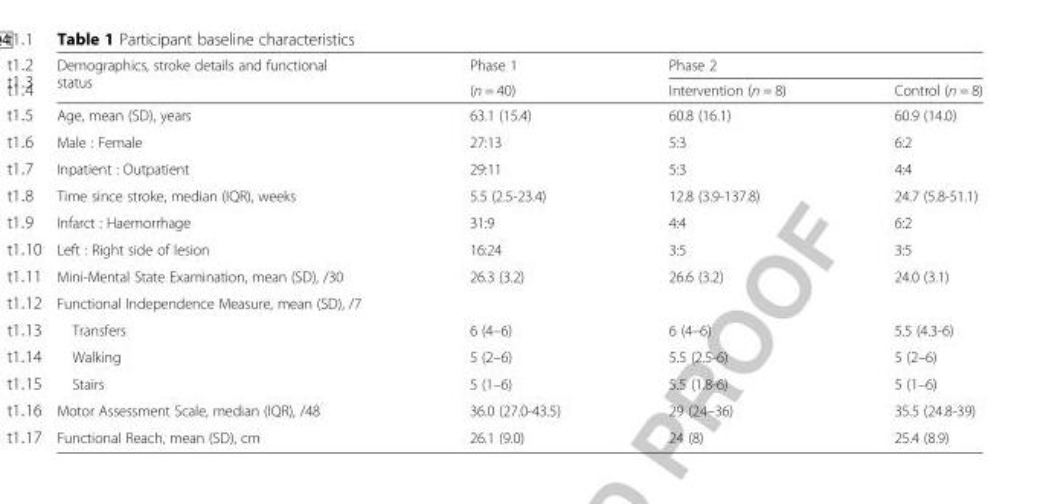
<table><thead><tr><td rowspan="2">Demographics, stroke details and functional status</td><td rowspan="2">Phase 1 (n = 40)</td><td colspan="2">Phase 2</td></tr><tr><td>Intervention (n = 8)</td><td>Control (n = 8)</td></tr></thead><tbody><tr><td>Age, mean (SD), years</td><td>63.1 (15.4)</td><td>60.8 (16.1)</td><td>60.9 (14.0)</td></tr><tr><td>Male : Female</td><td>27:13</td><td>5:3</td><td>6:2</td></tr><tr><td>Inpatient : Outpatient</td><td>29:11</td><td>5:3</td><td>4:4</td></tr><tr><td>Time since stroke, median (IQR), weeks</td><td>5.5 (2.5-23.4)</td><td>12.8 (3.9-137.8)</td><td>24.7 (5.8-51.1)</td></tr><tr><td>Infarct : Haemorrhage</td><td>31:9</td><td>4:4</td><td>6:2</td></tr><tr><td>Left : Right side of lesion</td><td>16:24</td><td>3:5</td><td>3:5</td></tr><tr><td>Mini-Mental State Examination, mean (SD), /30</td><td>26.3 (3.2)</td><td>26.6 (3.2)</td><td>24.0 (3.1)</td></tr><tr><td colspan="4">Functional Independence Measure, mean (SD), /7</td></tr><tr><td>Transfers</td><td>6 (4–6)</td><td>6 (4–6)</td><td>5.5 (4.3-6)</td></tr><tr><td>Walking</td><td>5 (2–6)</td><td>5.5 (2.5-6)</td><td>5 (2–6)</td></tr><tr><td>Stairs</td><td>5 (1–6)</td><td>5.5 (1.8-6)</td><td>5 (1–6)</td></tr><tr><td>Motor Assessment Scale, median (IQR), /48</td><td>36.0 (27.0-43.5)</td><td>29 (24–36)</td><td>35.5 (24.8-39)</td></tr><tr><td>Functional Reach, mean (SD), cm</td><td>26.1 (9.0)</td><td>24 (8)</td><td>25.4 (8.9)</td></tr></tbody></table>